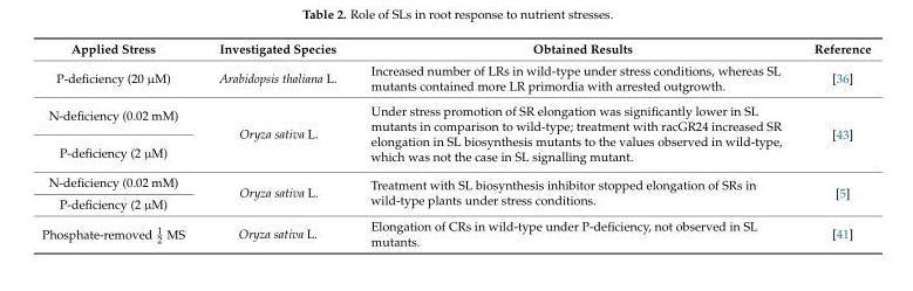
<table><thead><tr><td>Applied Stress</td><td>Investigated Species</td><td>Obtained Results</td><td>Reference</td></tr></thead><tbody><tr><td>P-deficiency (20 µM)</td><td>Arabidopsis thaliana L.</td><td>Increased number of LRs in wild-type under stress conditions, whereas SL mutants contained more LR primordia with arrested outgrowth.</td><td>[36]</td></tr><tr><td>N-deficiency (0.02 mM)</td><td rowspan="2">Oryza sativa L.</td><td rowspan="2">Under stress promotion of SR elongation was significantly lower in SL mutants in comparison to wild-type; treatment with racGR24 increased SR elongation in SL biosynthesis mutants to the values observed in wild-type, which was not the case in SL signalling mutant.</td><td rowspan="2">[43]</td></tr><tr><td>P-deficiency (2 µM)</td></tr><tr><td>N-deficiency (0.02 mM)</td><td rowspan="2">Oryza sativa L.</td><td rowspan="2">Treatment with SL biosynthesis inhibitor stopped elongation of SRs in wild-type plants under stress conditions.</td><td rowspan="2">[5]</td></tr><tr><td>P-deficiency (2 µM)</td></tr><tr><td>Phosphate-removed 1 2 MS</td><td>Oryza sativa L.</td><td>Elongation of CRs in wild-type under P-deficiency, not observed in SL mutants.</td><td>[41]</td></tr></tbody></table>